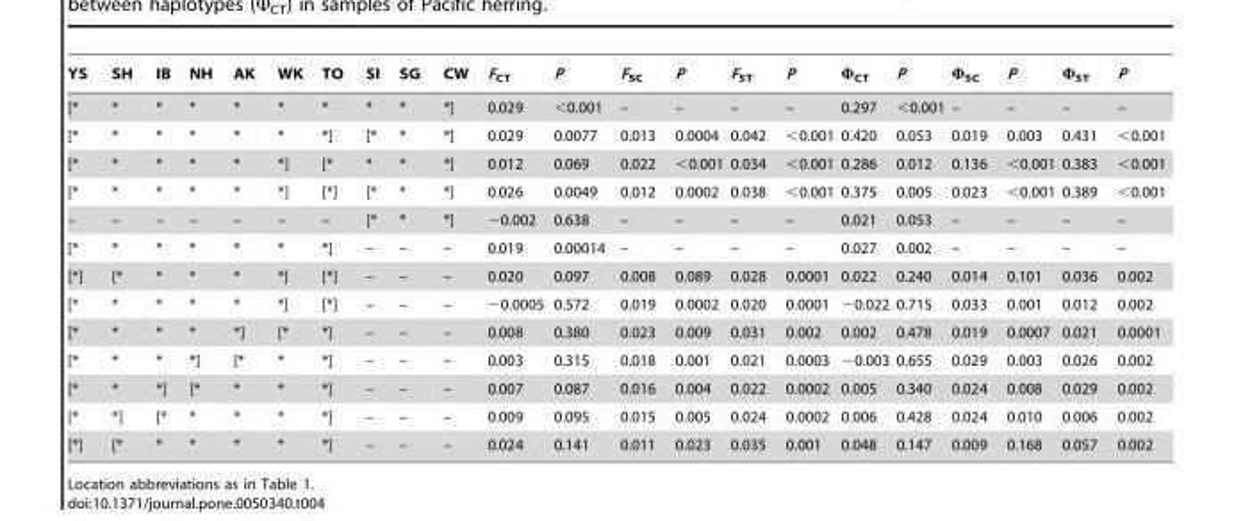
<table><thead><tr><td>YS</td><td>SH</td><td>IB</td><td>NH</td><td>AK</td><td>WK</td><td>TO</td><td>SI</td><td>SG</td><td>CW</td><td>F<sub>CT</sub></td><td>P</td><td>F<sub>SC</sub></td><td>P</td><td>F<sub>ST</sub></td><td>P</td><td>Φ<sub>CT</sub></td><td>P</td><td>Φ<sub>SC</sub></td><td>P</td><td>Φ<sub>ST</sub></td><td>P</td></tr></thead><tbody><tr><td>[*</td><td>*</td><td>*</td><td>*</td><td>*</td><td>*</td><td>*</td><td>*</td><td>*</td><td>*]</td><td>0.029</td><td>&lt;0.001</td><td>–</td><td>–</td><td>–</td><td>–</td><td>0.297</td><td>&lt;0.001</td><td>–</td><td>–</td><td>–</td><td>–</td></tr><tr><td>[*</td><td>*</td><td>*</td><td>*</td><td>*</td><td>*</td><td>*]</td><td>[*</td><td>*</td><td>*]</td><td>0.029</td><td>0.0077</td><td>0.013</td><td>0.0004</td><td>0.042</td><td>&lt;0.001</td><td>0.420</td><td>0.053</td><td>0.019</td><td>0.003</td><td>0.431</td><td>&lt;0.001</td></tr><tr><td>[*</td><td>*</td><td>*</td><td>*</td><td>*</td><td>*]</td><td>[*</td><td>*</td><td>*</td><td>*]</td><td>0.012</td><td>0.069</td><td>0.022</td><td>&lt;0.001</td><td>0.034</td><td>&lt;0.001</td><td>0.286</td><td>0.012</td><td>0.136</td><td>&lt;0.001</td><td>0.383</td><td>&lt;0.001</td></tr><tr><td>[*</td><td>*</td><td>*</td><td>*</td><td>*</td><td>*]</td><td>[*]</td><td>[*</td><td>*</td><td>*]</td><td>0.026</td><td>0.0049</td><td>0.012</td><td>0.0002</td><td>0.038</td><td>&lt;0.001</td><td>0.375</td><td>0.005</td><td>0.023</td><td>&lt;0.001</td><td>0.389</td><td>&lt;0.001</td></tr><tr><td>–</td><td>–</td><td>–</td><td>–</td><td>–</td><td>–</td><td>–</td><td>[*</td><td>*</td><td>*]</td><td>−0.002</td><td>0.638</td><td>–</td><td>–</td><td>–</td><td>–</td><td>0.021</td><td>0.053</td><td>–</td><td>–</td><td>–</td><td>–</td></tr><tr><td>[*</td><td>*</td><td>*</td><td>*</td><td>*</td><td>*</td><td>*]</td><td>–</td><td>–</td><td>–</td><td>0.019</td><td>0.00014</td><td>–</td><td>–</td><td>–</td><td>–</td><td>0.027</td><td>0.002</td><td>–</td><td>–</td><td>–</td><td>–</td></tr><tr><td>[*]</td><td>[*</td><td>*</td><td>*</td><td>*</td><td>*]</td><td>[*]</td><td>–</td><td>–</td><td>–</td><td>0.020</td><td>0.097</td><td>0.008</td><td>0.089</td><td>0.028</td><td>0.0001</td><td>0.022</td><td>0.240</td><td>0.014</td><td>0.101</td><td>0.036</td><td>0.002</td></tr><tr><td>[*</td><td>*</td><td>*</td><td>*</td><td>*</td><td>*]</td><td>[*]</td><td>–</td><td>–</td><td>–</td><td>−0.0005</td><td>0.572</td><td>0.019</td><td>0.0002</td><td>0.020</td><td>0.0001</td><td>−0.022</td><td>0.715</td><td>0.033</td><td>0.001</td><td>0.012</td><td>0.002</td></tr><tr><td>[*</td><td>*</td><td>*</td><td>*</td><td>*]</td><td>[*</td><td>*]</td><td>–</td><td>–</td><td>–</td><td>0.008</td><td>0.380</td><td>0.023</td><td>0.009</td><td>0.031</td><td>0.002</td><td>0.002</td><td>0.478</td><td>0.019</td><td>0.0007</td><td>0.021</td><td>0.0001</td></tr><tr><td>[*</td><td>*</td><td>*</td><td>*]</td><td>[*</td><td>*</td><td>*]</td><td>–</td><td>–</td><td>–</td><td>0.003</td><td>0.315</td><td>0.018</td><td>0.001</td><td>0.021</td><td>0.0003</td><td>−0.003</td><td>0.655</td><td>0.029</td><td>0.003</td><td>0.026</td><td>0.002</td></tr><tr><td>[*</td><td>*</td><td>*]</td><td>[*</td><td>*</td><td>*</td><td>*]</td><td>–</td><td>–</td><td>–</td><td>0.007</td><td>0.087</td><td>0.016</td><td>0.004</td><td>0.022</td><td>0.0002</td><td>0.005</td><td>0.340</td><td>0.024</td><td>0.008</td><td>0.029</td><td>0.002</td></tr><tr><td>[*</td><td>*]</td><td>[*</td><td>*</td><td>*</td><td>*</td><td>*]</td><td>–</td><td>–</td><td>–</td><td>0.009</td><td>0.095</td><td>0.015</td><td>0.005</td><td>0.024</td><td>0.0002</td><td>0.006</td><td>0.428</td><td>0.024</td><td>0.010</td><td>0.006</td><td>0.002</td></tr><tr><td>[*]</td><td>[*</td><td>*</td><td>*</td><td>*</td><td>*</td><td>*]</td><td>–</td><td>–</td><td>–</td><td>0.024</td><td>0.141</td><td>0.011</td><td>0.023</td><td>0.035</td><td>0.001</td><td>0.048</td><td>0.147</td><td>0.009</td><td>0.168</td><td>0.057</td><td>0.002</td></tr></tbody></table>